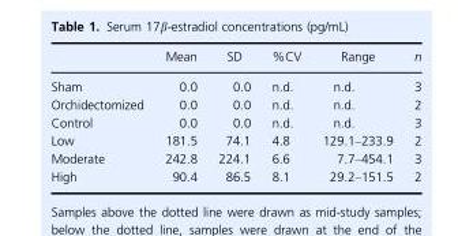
<table><thead><tr><td></td><td>Mean</td><td>SD</td><td>%CV</td><td>Range</td><td>n</td></tr></thead><tbody><tr><td>Sham</td><td>0.0</td><td>0.0</td><td>n.d.</td><td>n.d.</td><td>3</td></tr><tr><td>Orchidectomized</td><td>0.0</td><td>0.0</td><td>n.d.</td><td>n.d.</td><td>2</td></tr><tr><td>Control</td><td>0.0</td><td>0.0</td><td>n.d.</td><td>n.d.</td><td>3</td></tr><tr><td>Low</td><td>181.5</td><td>74.1</td><td>4.8</td><td>129.1–233.9</td><td>2</td></tr><tr><td>Moderate</td><td>242.8</td><td>224.1</td><td>6.6</td><td>7.7–454.1</td><td>3</td></tr><tr><td>High</td><td>90.4</td><td>86.5</td><td>8.1</td><td>29.2–151.5</td><td>2</td></tr></tbody></table>